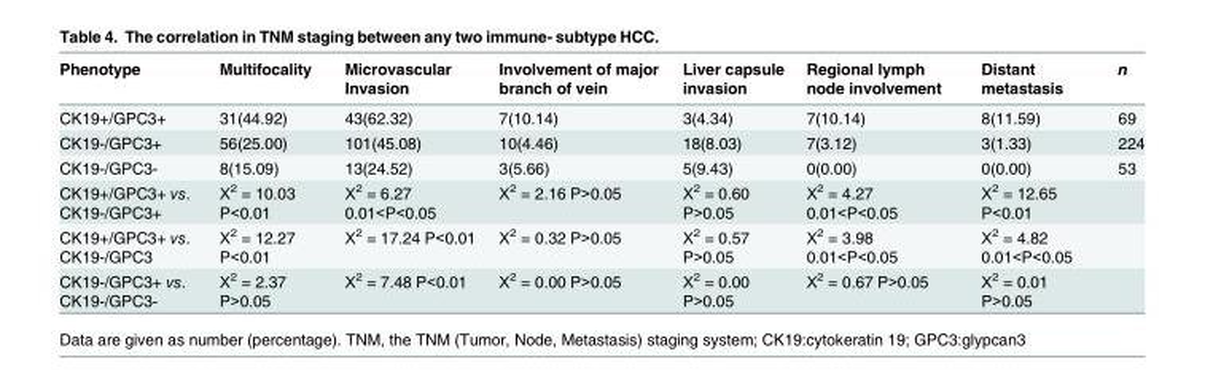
<table><thead><tr><td>Phenotype</td><td>Multifocality</td><td>Microvascular Invasion</td><td>Involvement of major branch of vein</td><td>Liver capsule invasion</td><td>Regional lymph node involvement</td><td>Distant metastasis</td><td>n</td></tr></thead><tbody><tr><td>CK19+/GPC3+</td><td>31(44.92)</td><td>43(62.32)</td><td>7(10.14)</td><td>3(4.34)</td><td>7(10.14)</td><td>8(11.59)</td><td>69</td></tr><tr><td>CK19-/GPC3+</td><td>56(25.00)</td><td>101(45.08)</td><td>10(4.46)</td><td>18(8.03)</td><td>7(3.12)</td><td>3(1.33)</td><td>224</td></tr><tr><td>CK19-/GPC3-</td><td>8(15.09)</td><td>13(24.52)</td><td>3(5.66)</td><td>5(9.43)</td><td>0(0.00)</td><td>0(0.00)</td><td>53</td></tr><tr><td>CK19+/GPC3+ vs. CK19-/GPC3+</td><td>Χ<sup>2</sup> = 10.03 P&lt;0.01</td><td>Χ<sup>2</sup> = 6.27 0.01&lt;P&lt;0.05</td><td>Χ<sup>2</sup> = 2.16 P&gt;0.05</td><td>Χ<sup>2</sup> = 0.60 P&gt;0.05</td><td>Χ<sup>2</sup> = 4.27 0.01&lt;P&lt;0.05</td><td>Χ<sup>2</sup> = 12.65 P&lt;0.01</td><td></td></tr><tr><td>CK19+/GPC3+ vs. CK19-/GPC3</td><td>Χ<sup>2</sup> = 12.27 P&lt;0.01</td><td>Χ<sup>2</sup> = 17.24 P&lt;0.01</td><td>Χ<sup>2</sup> = 0.32 P&gt;0.05</td><td>Χ<sup>2</sup> = 0.57 P&gt;0.05</td><td>Χ<sup>2</sup> = 3.98 0.01&lt;P&lt;0.05</td><td>Χ<sup>2</sup> = 4.82 0.01&lt;P&lt;0.05</td><td></td></tr><tr><td>CK19-/GPC3+ vs. CK19-/GPC3-</td><td>Χ<sup>2</sup> = 2.37 P&gt;0.05</td><td>Χ<sup>2</sup> = 7.48 P&lt;0.01</td><td>Χ<sup>2</sup> = 0.00 P&gt;0.05</td><td>Χ<sup>2</sup> = 0.00 P&gt;0.05</td><td>Χ<sup>2</sup> = 0.67 P&gt;0.05</td><td>Χ<sup>2</sup> = 0.01 P&gt;0.05</td><td></td></tr></tbody></table>